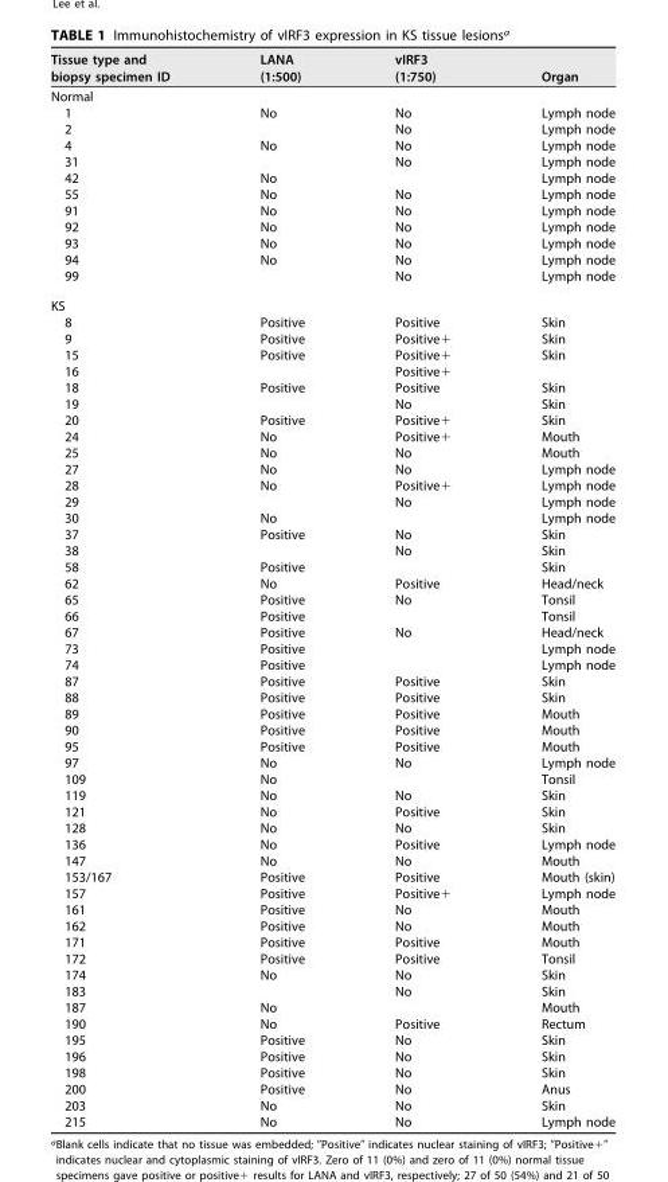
<table><thead><tr><td>Tissue type and biopsy specimen ID</td><td>LANA (1:500)</td><td>vIRF3 (1:750)</td><td>Organ</td></tr></thead><tbody><tr><td colspan="4">Normal</td></tr><tr><td>1</td><td>No</td><td>No</td><td>Lymph node</td></tr><tr><td>2</td><td></td><td>No</td><td>Lymph node</td></tr><tr><td>4</td><td>No</td><td>No</td><td>Lymph node</td></tr><tr><td>31</td><td></td><td>No</td><td>Lymph node</td></tr><tr><td>42</td><td>No</td><td></td><td>Lymph node</td></tr><tr><td>55</td><td>No</td><td>No</td><td>Lymph node</td></tr><tr><td>91</td><td>No</td><td>No</td><td>Lymph node</td></tr><tr><td>92</td><td>No</td><td>No</td><td>Lymph node</td></tr><tr><td>93</td><td>No</td><td>No</td><td>Lymph node</td></tr><tr><td>94</td><td>No</td><td>No</td><td>Lymph node</td></tr><tr><td>99</td><td></td><td>No</td><td>Lymph node</td></tr><tr><td colspan="4">KS</td></tr><tr><td>8</td><td>Positive</td><td>Positive</td><td>Skin</td></tr><tr><td>9</td><td>Positive</td><td>Positive+</td><td>Skin</td></tr><tr><td>15</td><td>Positive</td><td>Positive+</td><td>Skin</td></tr><tr><td>16</td><td></td><td>Positive+</td><td></td></tr><tr><td>18</td><td>Positive</td><td>Positive</td><td>Skin</td></tr><tr><td>19</td><td></td><td>No</td><td>Skin</td></tr><tr><td>20</td><td>Positive</td><td>Positive+</td><td>Skin</td></tr><tr><td>24</td><td>No</td><td>Positive+</td><td>Mouth</td></tr><tr><td>25</td><td>No</td><td>No</td><td>Mouth</td></tr><tr><td>27</td><td>No</td><td>No</td><td>Lymph node</td></tr><tr><td>28</td><td>No</td><td>Positive+</td><td>Lymph node</td></tr><tr><td>29</td><td></td><td>No</td><td>Lymph node</td></tr><tr><td>30</td><td>No</td><td></td><td>Lymph node</td></tr><tr><td>37</td><td>Positive</td><td>No</td><td>Skin</td></tr><tr><td>38</td><td></td><td>No</td><td>Skin</td></tr><tr><td>58</td><td>Positive</td><td></td><td>Skin</td></tr><tr><td>62</td><td>No</td><td>Positive</td><td>Head/neck</td></tr><tr><td>65</td><td>Positive</td><td>No</td><td>Tonsil</td></tr><tr><td>66</td><td>Positive</td><td></td><td>Tonsil</td></tr><tr><td>67</td><td>Positive</td><td>No</td><td>Head/neck</td></tr><tr><td>73</td><td>Positive</td><td></td><td>Lymph node</td></tr><tr><td>74</td><td>Positive</td><td></td><td>Lymph node</td></tr><tr><td>87</td><td>Positive</td><td>Positive</td><td>Skin</td></tr><tr><td>88</td><td>Positive</td><td>Positive</td><td>Skin</td></tr><tr><td>89</td><td>Positive</td><td>Positive</td><td>Mouth</td></tr><tr><td>90</td><td>Positive</td><td>Positive</td><td>Mouth</td></tr><tr><td>95</td><td>Positive</td><td>Positive</td><td>Mouth</td></tr><tr><td>97</td><td>No</td><td>No</td><td>Lymph node</td></tr><tr><td>109</td><td>No</td><td></td><td>Tonsil</td></tr><tr><td>119</td><td>No</td><td>No</td><td>Skin</td></tr><tr><td>121</td><td>No</td><td>Positive</td><td>Skin</td></tr><tr><td>128</td><td>No</td><td>No</td><td>Skin</td></tr><tr><td>136</td><td>No</td><td>Positive</td><td>Lymph node</td></tr><tr><td>147</td><td>No</td><td>No</td><td>Mouth</td></tr><tr><td>153/167</td><td>Positive</td><td>Positive</td><td>Mouth (skin)</td></tr><tr><td>157</td><td>Positive</td><td>Positive+</td><td>Lymph node</td></tr><tr><td>161</td><td>Positive</td><td>No</td><td>Mouth</td></tr><tr><td>162</td><td>Positive</td><td>No</td><td>Mouth</td></tr><tr><td>171</td><td>Positive</td><td>Positive</td><td>Mouth</td></tr><tr><td>172</td><td>Positive</td><td>Positive</td><td>Tonsil</td></tr><tr><td>174</td><td>No</td><td>No</td><td>Skin</td></tr><tr><td>183</td><td></td><td>No</td><td>Skin</td></tr><tr><td>187</td><td>No</td><td></td><td>Mouth</td></tr><tr><td>190</td><td>No</td><td>Positive</td><td>Rectum</td></tr><tr><td>195</td><td>Positive</td><td>No</td><td>Skin</td></tr><tr><td>196</td><td>Positive</td><td>No</td><td>Skin</td></tr><tr><td>198</td><td>Positive</td><td>No</td><td>Skin</td></tr><tr><td>200</td><td>Positive</td><td>No</td><td>Anus</td></tr><tr><td>203</td><td>No</td><td>No</td><td>Skin</td></tr><tr><td>215</td><td>No</td><td>No</td><td>Lymph node</td></tr></tbody></table>